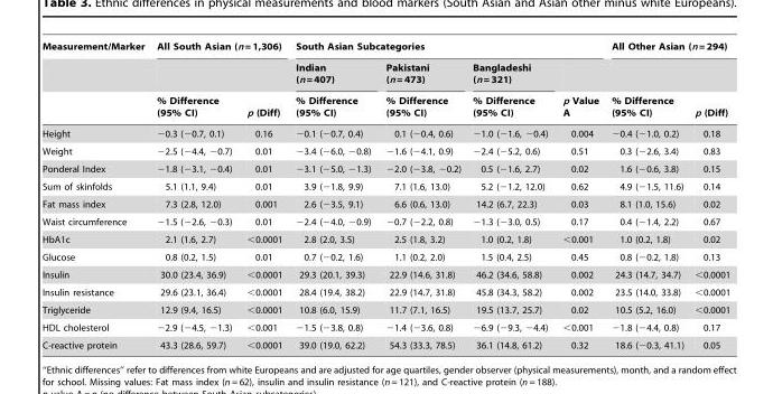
<table><thead><tr><td rowspan="3">Measurement/Marker</td><td colspan="2">All South Asian (n = 1,306)</td><td colspan="4">South Asian Subcategories</td><td colspan="2">All Other Asian (n = 294)</td></tr><tr><td rowspan="2">% Difference (95% CI)</td><td rowspan="2">p (Diff)</td><td rowspan="2">Indian (n = 407) % Difference (95% CI)</td><td rowspan="2">Pakistani (n = 473) % Difference (95% CI)</td><td rowspan="2">Bangladeshi (n = 321) % Difference (95% CI)</td><td rowspan="2">p Value A</td><td rowspan="2">% Difference (95% CI)</td><td rowspan="2">p (Diff)</td></tr><tr></tr></thead><tbody><tr><td>Height</td><td>−0.3 (−0.7, 0.1)</td><td>0.16</td><td>−0.1 (−0.7, 0.4)</td><td>0.1 (−0.4, 0.6)</td><td>−1.0 (−1.6, −0.4)</td><td>0.004</td><td>−0.4 (−1.0, 0.2)</td><td>0.18</td></tr><tr><td>Weight</td><td>−2.5 (−4.4, −0.7)</td><td>0.01</td><td>−3.4 (−6.0, −0.8)</td><td>−1.6 (−4.1, 0.9)</td><td>−2.4 (−5.2, 0.6)</td><td>0.51</td><td>0.3 (−2.6, 3.4)</td><td>0.83</td></tr><tr><td>Ponderal Index</td><td>−1.8 (−3.1, −0.4)</td><td>0.01</td><td>−3.1 (−5.0, −1.3)</td><td>−2.0 (−3.8, −0.2)</td><td>0.5 (−1.6, 2.7)</td><td>0.02</td><td>1.6 (−0.6, 3.8)</td><td>0.15</td></tr><tr><td>Sum of skinfolds</td><td>5.1 (1.1, 9.4)</td><td>0.01</td><td>3.9 (−1.8, 9.9)</td><td>7.1 (1.6, 13.0)</td><td>5.2 (−1.2, 12.0)</td><td>0.62</td><td>4.9 (−1.5, 11.6)</td><td>0.14</td></tr><tr><td>Fat mass index</td><td>7.3 (2.8, 12.0)</td><td>0.001</td><td>2.6 (−3.5, 9.1)</td><td>6.6 (0.6, 13.0)</td><td>14.2 (6.7, 22.3)</td><td>0.03</td><td>8.1 (1.0, 15.6)</td><td>0.02</td></tr><tr><td>Waist circumference</td><td>−1.5 (−2.6, −0.3)</td><td>0.01</td><td>−2.4 (−4.0, −0.9)</td><td>−0.7 (−2.2, 0.8)</td><td>−1.3 (−3.0, 0.5)</td><td>0.17</td><td>0.4 (−1.4, 2.2)</td><td>0.67</td></tr><tr><td>HbA1c</td><td>2.1 (1.6, 2.7)</td><td>&lt;0.0001</td><td>2.8 (2.0, 3.5)</td><td>2.5 (1.8, 3.2)</td><td>1.0 (0.2, 1.8)</td><td>&lt;0.001</td><td>1.0 (0.2, 1.8)</td><td>0.02</td></tr><tr><td>Glucose</td><td>0.8 (0.2, 1.5)</td><td>0.01</td><td>0.7 (−0.2, 1.6)</td><td>1.1 (0.2, 2.0)</td><td>1.5 (0.4, 2.5)</td><td>0.45</td><td>0.8 (−0.2, 1.8)</td><td>0.13</td></tr><tr><td>Insulin</td><td>30.0 (23.4, 36.9)</td><td>&lt;0.0001</td><td>29.3 (20.1, 39.3)</td><td>22.9 (14.6, 31.8)</td><td>46.2 (34.6, 58.8)</td><td>0.002</td><td>24.3 (14.7, 34.7)</td><td>&lt;0.0001</td></tr><tr><td>Insulin resistance</td><td>29.6 (23.1, 36.4)</td><td>&lt;0.0001</td><td>28.4 (19.4, 38.2)</td><td>22.9 (14.7, 31.8)</td><td>45.8 (34.3, 58.2)</td><td>0.002</td><td>23.5 (14.0, 33.8)</td><td>&lt;0.0001</td></tr><tr><td>Triglyceride</td><td>12.9 (9.4, 16.5)</td><td>&lt;0.0001</td><td>10.8 (6.0, 15.9)</td><td>11.7 (7.1, 16.5)</td><td>19.5 (13.7, 25.7)</td><td>0.02</td><td>10.5 (5.2, 16.0)</td><td>&lt;0.0001</td></tr><tr><td>HDL cholesterol</td><td>−2.9 (−4.5, −1.3)</td><td>&lt;0.001</td><td>−1.5 (−3.8, 0.8)</td><td>−1.4 (−3.6, 0.8)</td><td>−6.9 (−9.3, −4.4)</td><td>&lt;0.001</td><td>−1.8 (−4.4, 0.8)</td><td>0.17</td></tr><tr><td>C-reactive protein</td><td>43.3 (28.6, 59.7)</td><td>&lt;0.0001</td><td>39.0 (19.0, 62.2)</td><td>54.3 (33.3, 78.5)</td><td>36.1 (14.8, 61.2)</td><td>0.32</td><td>18.6 (−0.3, 41.1)</td><td>0.05</td></tr></tbody></table>